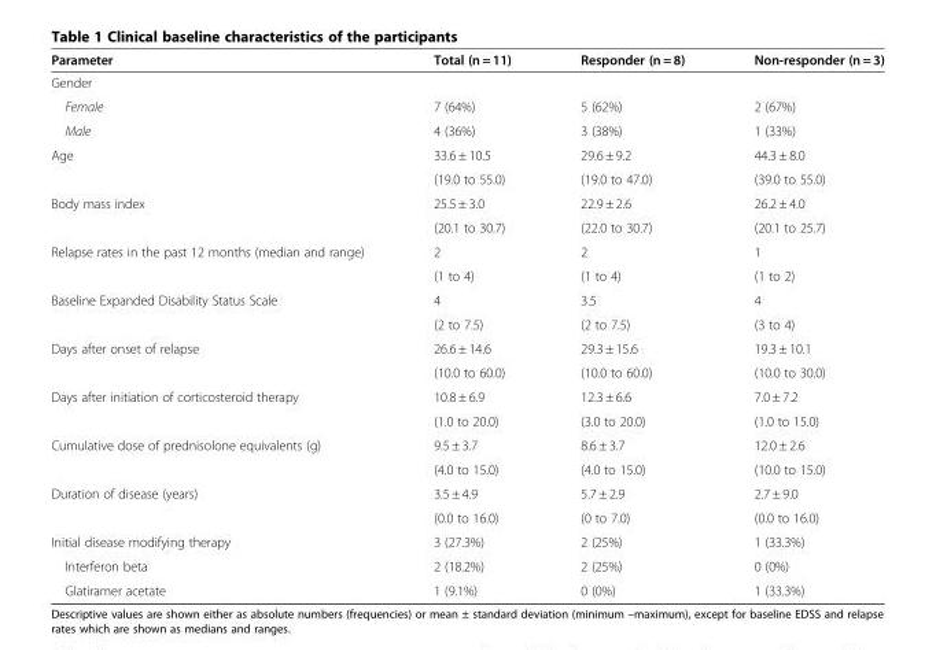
<table><thead><tr><td>Parameter</td><td>Total (n = 11)</td><td>Responder (n = 8)</td><td>Non-responder (n = 3)</td></tr></thead><tbody><tr><td colspan="4">Gender</td></tr><tr><td>Female</td><td>7 (64%)</td><td>5 (62%)</td><td>2 (67%)</td></tr><tr><td>Male</td><td>4 (36%)</td><td>3 (38%)</td><td>1 (33%)</td></tr><tr><td rowspan="2">Age</td><td>33.6 ± 10.5</td><td>29.6 ± 9.2</td><td>44.3 ± 8.0</td></tr><tr><td>(19.0 to 55.0)</td><td>(19.0 to 47.0)</td><td>(39.0 to 55.0)</td></tr><tr><td rowspan="2">Body mass index</td><td>25.5 ± 3.0</td><td>22.9 ± 2.6</td><td>26.2 ± 4.0</td></tr><tr><td>(20.1 to 30.7)</td><td>(22.0 to 30.7)</td><td>(20.1 to 25.7)</td></tr><tr><td rowspan="2">Relapse rates in the past 12 months (median and range)</td><td>2</td><td>2</td><td>1</td></tr><tr><td>(1 to 4)</td><td>(1 to 4)</td><td>(1 to 2)</td></tr><tr><td rowspan="2">Baseline Expanded Disability Status Scale</td><td>4</td><td>3.5</td><td>4</td></tr><tr><td>(2 to 7.5)</td><td>(2 to 7.5)</td><td>(3 to 4)</td></tr><tr><td rowspan="2">Days after onset of relapse</td><td>26.6 ± 14.6</td><td>29.3 ± 15.6</td><td>19.3 ± 10.1</td></tr><tr><td>(10.0 to 60.0)</td><td>(10.0 to 60.0)</td><td>(10.0 to 30.0)</td></tr><tr><td rowspan="2">Days after initiation of corticosteroid therapy</td><td>10.8 ± 6.9</td><td>12.3 ± 6.6</td><td>7.0 ± 7.2</td></tr><tr><td>(1.0 to 20.0)</td><td>(3.0 to 20.0)</td><td>(1.0 to 15.0)</td></tr><tr><td rowspan="2">Cumulative dose of prednisolone equivalents (g)</td><td>9.5 ± 3.7</td><td>8.6 ± 3.7</td><td>12.0 ± 2.6</td></tr><tr><td>(4.0 to 15.0)</td><td>(4.0 to 15.0)</td><td>(10.0 to 15.0)</td></tr><tr><td rowspan="2">Duration of disease (years)</td><td>3.5 ± 4.9</td><td>5.7 ± 2.9</td><td>2.7 ± 9.0</td></tr><tr><td>(0.0 to 16.0)</td><td>(0 to 7.0)</td><td>(0.0 to 16.0)</td></tr><tr><td>Initial disease modifying therapy</td><td>3 (27.3%)</td><td>2 (25%)</td><td>1 (33.3%)</td></tr><tr><td>Interferon beta</td><td>2 (18.2%)</td><td>2 (25%)</td><td>0 (0%)</td></tr><tr><td>Glatiramer acetate</td><td>1 (9.1%)</td><td>0 (0%)</td><td>1 (33.3%)</td></tr></tbody></table>